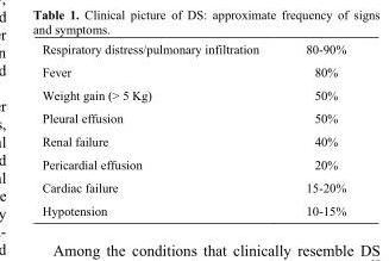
<table><tbody><tr><td>Respiratory distress/pulmonary infiltration</td><td>80-90%</td></tr><tr><td>Fever</td><td>80%</td></tr><tr><td>Weight gain (&gt; 5 Kg)</td><td>50%</td></tr><tr><td>Pleural effusion</td><td>50%</td></tr><tr><td>Renal failure</td><td>40%</td></tr><tr><td>Pericardial effusion</td><td>20%</td></tr><tr><td>Cardiac failure</td><td>15-20%</td></tr><tr><td>Hypotension</td><td>10-15%</td></tr></tbody></table>